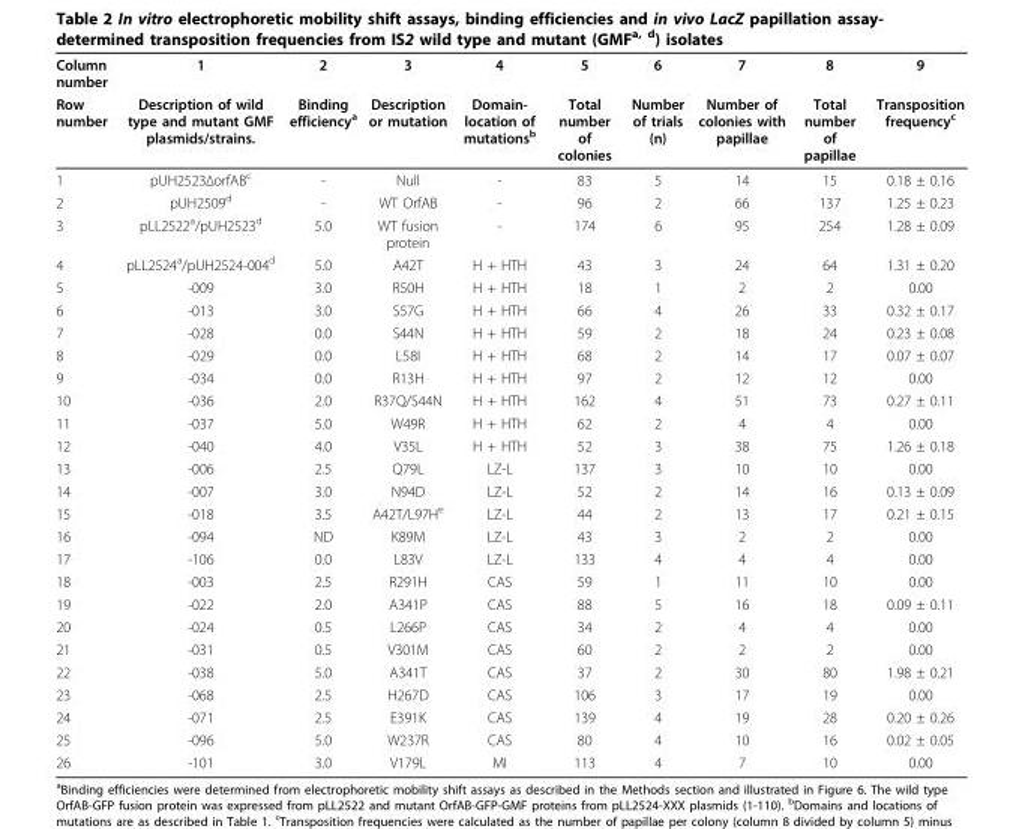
<table><thead><tr><td rowspan="2">Column number Row number</td><td rowspan="2">1 Description of wild type and mutant GMF plasmids/strains.</td><td rowspan="2">2 Binding efficiencya</td><td rowspan="2">3 Description or mutation</td><td rowspan="2">4 Domain- location of mutationsb</td><td rowspan="2">5 Total number of colonies</td><td rowspan="2">6 Number of trials (n)</td><td rowspan="2">7 Number of colonies with papillae</td><td rowspan="2">8 Total number of papillae</td><td rowspan="2">9 Transposition frequencyc</td></tr><tr></tr></thead><tbody><tr><td>1</td><td>pUH2523ΔorfAB<sup>c</sup></td><td>-</td><td>Null</td><td>-</td><td>83</td><td>5</td><td>14</td><td>15</td><td>0.18 ± 0.16</td></tr><tr><td>2</td><td>pUH2509<sup>d</sup></td><td>-</td><td>WT OrfAB</td><td>-</td><td>96</td><td>2</td><td>66</td><td>137</td><td>1.25 ± 0.23</td></tr><tr><td>3</td><td>pLL2522<sup>a</sup>/pUH2523<sup>d</sup></td><td>5.0</td><td>WT fusion protein</td><td>-</td><td>174</td><td>6</td><td>95</td><td>254</td><td>1.28 ± 0.09</td></tr><tr><td>4</td><td>pLL2524<sup>a</sup>/pUH2524-004<sup>d</sup></td><td>5.0</td><td>A42T</td><td>H + HTH</td><td>43</td><td>3</td><td>24</td><td>64</td><td>1.31 ± 0.20</td></tr><tr><td>5</td><td>-009</td><td>3.0</td><td>R50H</td><td>H + HTH</td><td>18</td><td>1</td><td>2</td><td>2</td><td>0.00</td></tr><tr><td>6</td><td>-013</td><td>3.0</td><td>S57G</td><td>H + HTH</td><td>66</td><td>4</td><td>26</td><td>33</td><td>0.32 ± 0.17</td></tr><tr><td>7</td><td>-028</td><td>0.0</td><td>S44N</td><td>H + HTH</td><td>59</td><td>2</td><td>18</td><td>24</td><td>0.23 ± 0.08</td></tr><tr><td>8</td><td>-029</td><td>0.0</td><td>L58I</td><td>H + HTH</td><td>68</td><td>2</td><td>14</td><td>17</td><td>0.07 ± 0.07</td></tr><tr><td>9</td><td>-034</td><td>0.0</td><td>R13H</td><td>H + HTH</td><td>97</td><td>2</td><td>12</td><td>12</td><td>0.00</td></tr><tr><td>10</td><td>-036</td><td>2.0</td><td>R37Q/S44N</td><td>H + HTH</td><td>162</td><td>4</td><td>51</td><td>73</td><td>0.27 ± 0.11</td></tr><tr><td>11</td><td>-037</td><td>5.0</td><td>W49R</td><td>H + HTH</td><td>62</td><td>2</td><td>4</td><td>4</td><td>0.00</td></tr><tr><td>12</td><td>-040</td><td>4.0</td><td>V35L</td><td>H + HTH</td><td>52</td><td>3</td><td>38</td><td>75</td><td>1.26 ± 0.18</td></tr><tr><td>13</td><td>-006</td><td>2.5</td><td>Q79L</td><td>LZ-L</td><td>137</td><td>3</td><td>10</td><td>10</td><td>0.00</td></tr><tr><td>14</td><td>-007</td><td>3.0</td><td>N94D</td><td>LZ-L</td><td>52</td><td>2</td><td>14</td><td>16</td><td>0.13 ± 0.09</td></tr><tr><td>15</td><td>-018</td><td>3.5</td><td>A42T/L97H<sup>e</sup></td><td>LZ-L</td><td>44</td><td>2</td><td>13</td><td>17</td><td>0.21 ± 0.15</td></tr><tr><td>16</td><td>-094</td><td>ND</td><td>K89M</td><td>LZ-L</td><td>43</td><td>3</td><td>2</td><td>2</td><td>0.00</td></tr><tr><td>17</td><td>-106</td><td>0.0</td><td>L83V</td><td>LZ-L</td><td>133</td><td>4</td><td>4</td><td>4</td><td>0.00</td></tr><tr><td>18</td><td>-003</td><td>2.5</td><td>R291H</td><td>CAS</td><td>59</td><td>1</td><td>11</td><td>10</td><td>0.00</td></tr><tr><td>19</td><td>-022</td><td>2.0</td><td>A341P</td><td>CAS</td><td>88</td><td>5</td><td>16</td><td>18</td><td>0.09 ± 0.11</td></tr><tr><td>20</td><td>-024</td><td>0.5</td><td>L266P</td><td>CAS</td><td>34</td><td>2</td><td>4</td><td>4</td><td>0.00</td></tr><tr><td>21</td><td>-031</td><td>0.5</td><td>V301M</td><td>CAS</td><td>60</td><td>2</td><td>2</td><td>2</td><td>0.00</td></tr><tr><td>22</td><td>-038</td><td>5.0</td><td>A341T</td><td>CAS</td><td>37</td><td>2</td><td>30</td><td>80</td><td>1.98 ± 0.21</td></tr><tr><td>23</td><td>-068</td><td>2.5</td><td>H267D</td><td>CAS</td><td>106</td><td>3</td><td>17</td><td>19</td><td>0.00</td></tr><tr><td>24</td><td>-071</td><td>2.5</td><td>E391K</td><td>CAS</td><td>139</td><td>4</td><td>19</td><td>28</td><td>0.20 ± 0.26</td></tr><tr><td>25</td><td>-096</td><td>5.0</td><td>W237R</td><td>CAS</td><td>80</td><td>4</td><td>10</td><td>16</td><td>0.02 ± 0.05</td></tr><tr><td>26</td><td>-101</td><td>3.0</td><td>V179L</td><td>MI</td><td>113</td><td>4</td><td>7</td><td>10</td><td>0.00</td></tr></tbody></table>